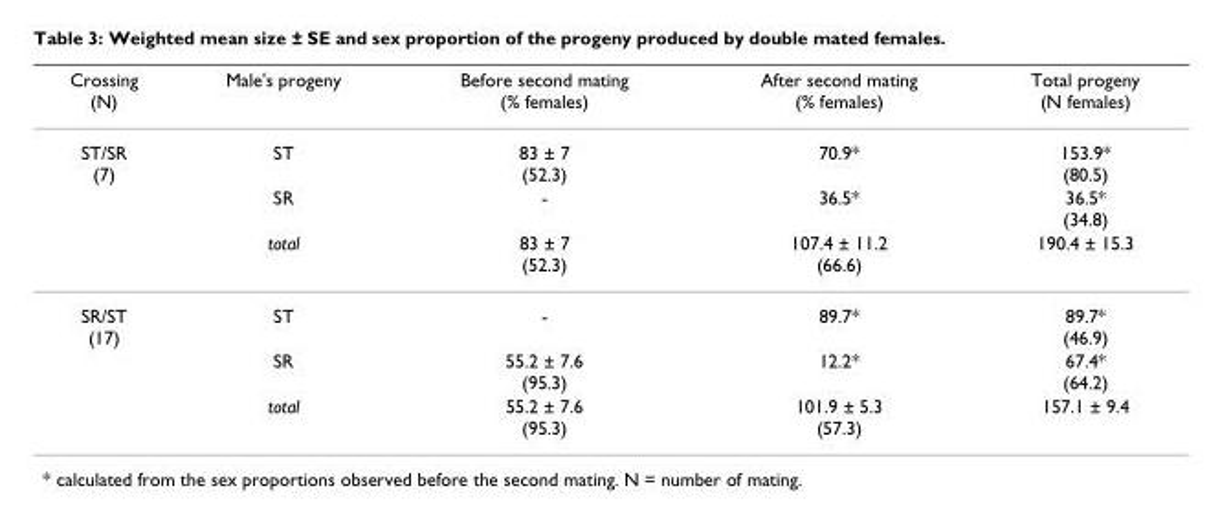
<table><thead><tr><td>Crossing (N)</td><td>Male&#x27;s progeny</td><td>Before second mating (% females)</td><td>After second mating (% females)</td><td>Total progeny (N females)</td></tr></thead><tbody><tr><td rowspan="3">ST/SR (7)</td><td>ST</td><td>83 ± 7 (52.3)</td><td>70.9*</td><td>153.9* (80.5)</td></tr><tr><td>SR</td><td>-</td><td>36.5*</td><td>36.5* (34.8)</td></tr><tr><td>total</td><td>83 ± 7 (52.3)</td><td>107.4 ± 11.2 (66.6)</td><td>190.4 ± 15.3</td></tr><tr><td rowspan="3">SR/ST (17)</td><td>ST</td><td>-</td><td>89.7*</td><td>89.7* (46.9)</td></tr><tr><td>SR</td><td>55.2 ± 7.6 (95.3)</td><td>12.2*</td><td>67.4* (64.2)</td></tr><tr><td>total</td><td>55.2 ± 7.6 (95.3)</td><td>101.9 ± 5.3 (57.3)</td><td>157.1 ± 9.4</td></tr></tbody></table>